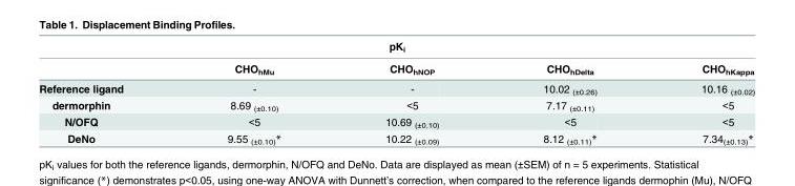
<table><thead><tr><td colspan="5">pK<sub>i</sub></td></tr><tr><td></td><td>CHO<sub>hMu</sub></td><td>CHO<sub>hNOP</sub></td><td>CHO<sub>hDelta</sub></td><td>CHO<sub>hKappa</sub></td></tr></thead><tbody><tr><td>Reference ligand</td><td>-</td><td>-</td><td>10.02 <sub>(±0.26)</sub></td><td>10.16 <sub>(±0.02)</sub></td></tr><tr><td>dermorphin</td><td>8.69 <sub>(±0.10)</sub></td><td>&lt;5</td><td>7.17 <sub>(±0.11)</sub></td><td>&lt;5</td></tr><tr><td>N/OFQ</td><td>&lt;5</td><td>10.69 <sub>(±0.10)</sub></td><td>&lt;5</td><td>&lt;5</td></tr><tr><td>DeNo</td><td>9.55 <sub>(±0.10)</sub>*</td><td>10.22 <sub>(±0.09)</sub></td><td>8.12 <sub>(±0.11)</sub>*</td><td>7.34<sub>(±0.13)</sub>*</td></tr></tbody></table>